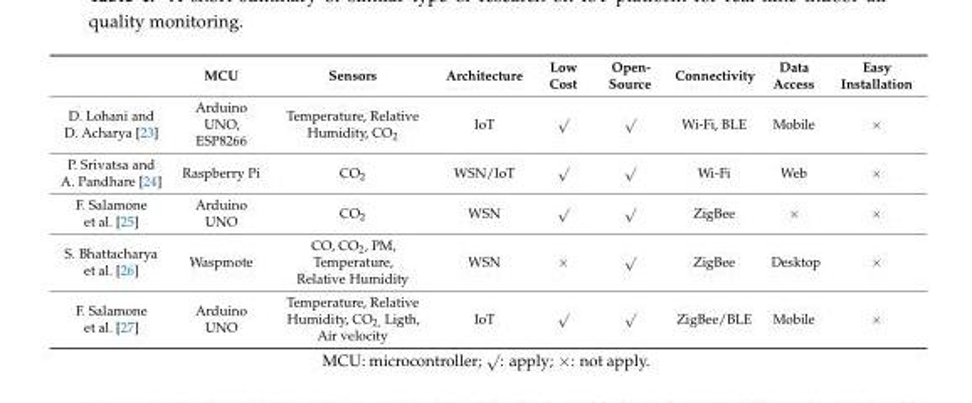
<table><thead><tr><td></td><td>MCU</td><td>Sensors</td><td>Architecture</td><td>Low Cost</td><td>Open- Source</td><td>Connectivity</td><td>Data Access</td><td>Easy Installation</td></tr></thead><tbody><tr><td>D. Lohani and D. Acharya [23]</td><td>Arduino UNO, ESP8266</td><td>Temperature, Relative Humidity, CO<sub>2</sub></td><td>IoT</td><td>√</td><td>√</td><td>Wi-Fi, BLE</td><td>Mobile</td><td>×</td></tr><tr><td>P. Srivatsa and A. Pandhare [24]</td><td>Raspberry Pi</td><td>CO<sub>2</sub></td><td>WSN/IoT</td><td>√</td><td>√</td><td>Wi-Fi</td><td>Web</td><td>×</td></tr><tr><td>F. Salamone et al. [25]</td><td>Arduino UNO</td><td>CO<sub>2</sub></td><td>WSN</td><td>√</td><td>√</td><td>ZigBee</td><td>×</td><td>×</td></tr><tr><td>S. Bhattacharya et al. [26]</td><td>Waspmote</td><td>CO, CO<sub>2</sub>, PM, Temperature, Relative Humidity</td><td>WSN</td><td>×</td><td>√</td><td>ZigBee</td><td>Desktop</td><td>×</td></tr><tr><td>F. Salamone et al. [27]</td><td>Arduino UNO</td><td>Temperature, Relative Humidity, CO<sub>2,</sub> Ligth, Air velocity</td><td>IoT</td><td>√</td><td>√</td><td>ZigBee/BLE</td><td>Mobile</td><td>×</td></tr></tbody></table>